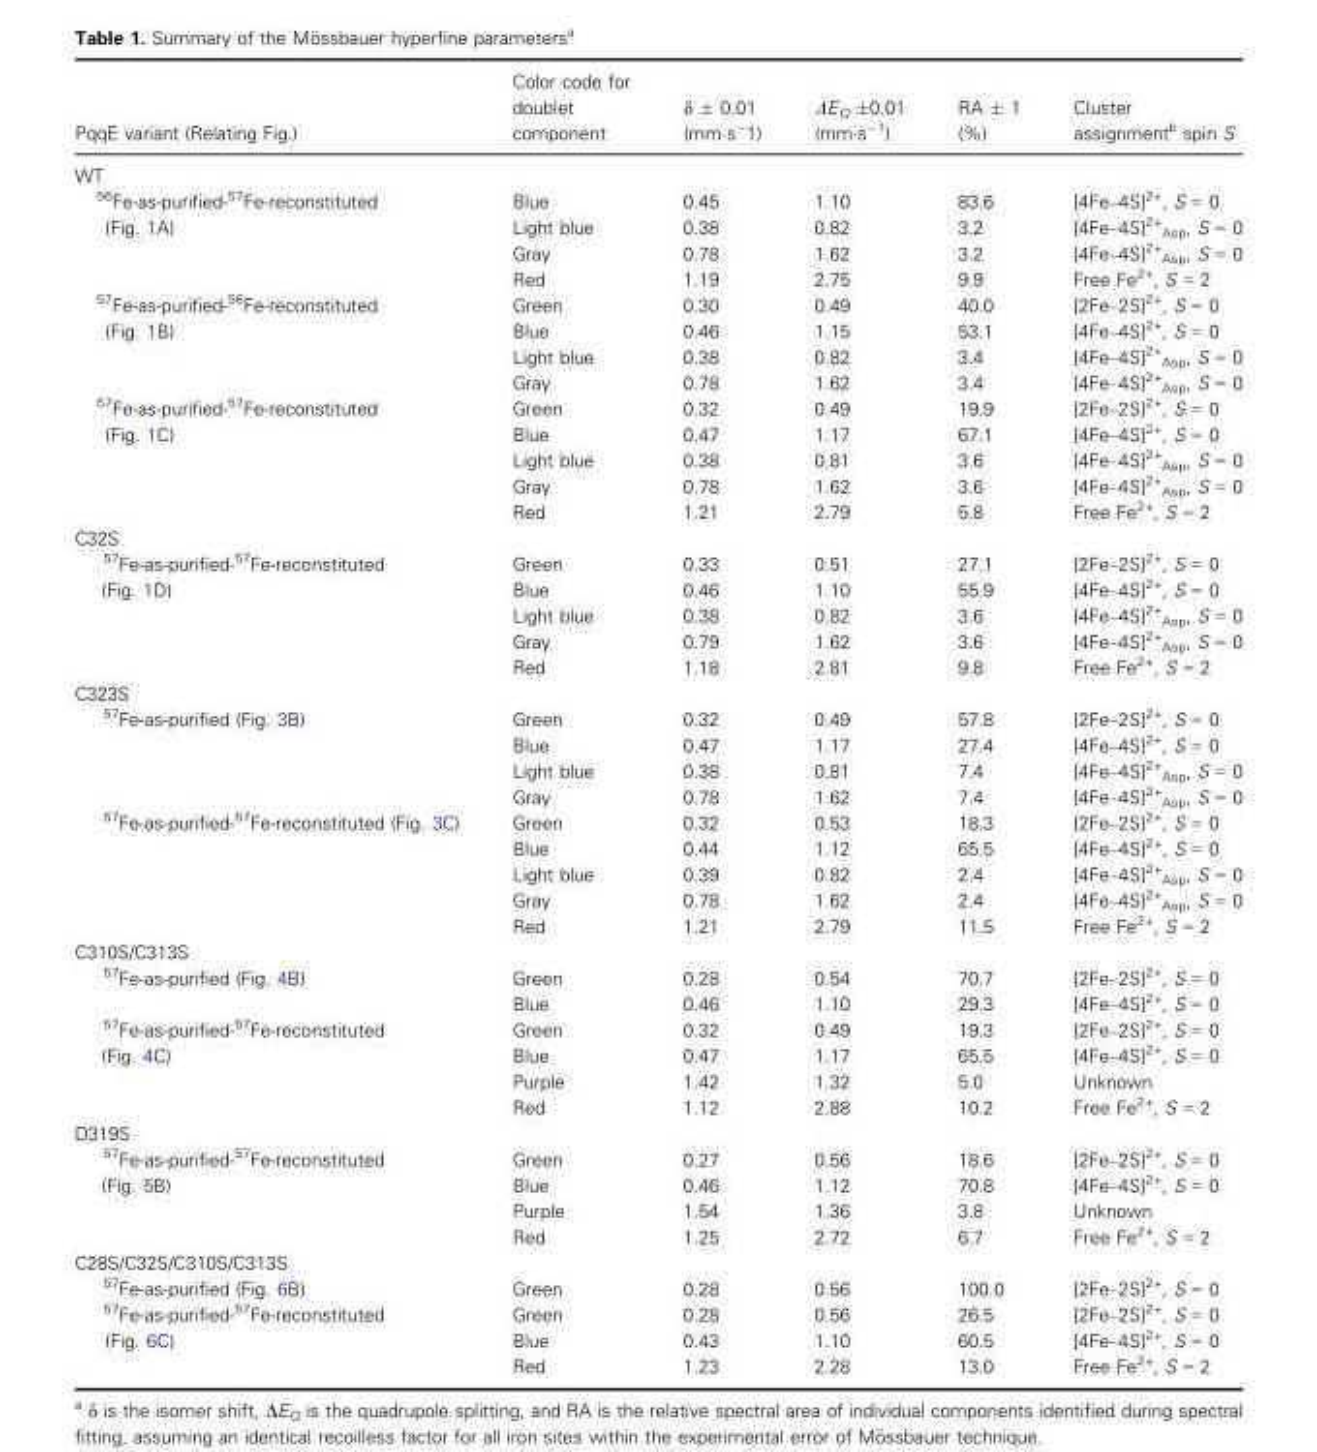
<table><thead><tr><td>PqqE variant (Relating Fig.)</td><td>Color code for doublet component</td><td>δ ± 0.01 (mm·s<sup>−</sup>1)</td><td>ΔE<sub>Q</sub> ±0.01 (mm·s<sup>−1</sup>)</td><td>RA ± 1 (%)</td><td>Cluster assignment<sup>b</sup> spin S</td></tr></thead><tbody><tr><td colspan="6">WT</td></tr><tr><td rowspan="4"><sup>56</sup>Fe-as-purified-<sup>57</sup>Fe-reconstituted (Fig. 1A)</td><td>Blue</td><td>0.45</td><td>1.10</td><td>83.6</td><td>[4Fe–4S]<sup>2+</sup>, S = 0</td></tr><tr><td>Light blue</td><td>0.38</td><td>0.82</td><td>3.2</td><td>[4Fe–4S]<sup>2+</sup> <sub>Asp</sub>, S = 0</td></tr><tr><td>Gray</td><td>0.78</td><td>1.62</td><td>3.2</td><td>[4Fe–4S]<sup>2+</sup> <sub>Asp</sub>, S = 0</td></tr><tr><td>Red</td><td>1.19</td><td>2.75</td><td>9.9</td><td>Free Fe<sup>2+</sup>, S = 2</td></tr><tr><td rowspan="4"><sup>57</sup>Fe-as-purified-<sup>56</sup>Fe-reconstituted (Fig. 1B)</td><td>Green</td><td>0.30</td><td>0.49</td><td>40.0</td><td>[2Fe–2S]<sup>2+</sup>, S = 0</td></tr><tr><td>Blue</td><td>0.46</td><td>1.15</td><td>53.1</td><td>[4Fe–4S]<sup>2+</sup>, S = 0</td></tr><tr><td>Light blue</td><td>0.38</td><td>0.82</td><td>3.4</td><td>[4Fe–4S]<sup>2+</sup> <sub>Asp</sub>, S = 0</td></tr><tr><td>Gray</td><td>0.78</td><td>1.62</td><td>3.4</td><td>[4Fe–4S]<sup>2+</sup> <sub>Asp</sub>, S = 0</td></tr><tr><td rowspan="5"><sup>57</sup>Fe-as-purified-<sup>57</sup>Fe-reconstituted (Fig. 1C)</td><td>Green</td><td>0.32</td><td>0.49</td><td>19.9</td><td>[2Fe–2S]<sup>2+</sup>, S = 0</td></tr><tr><td>Blue</td><td>0.47</td><td>1.17</td><td>67.1</td><td>[4Fe–4S]<sup>2+</sup>, S = 0</td></tr><tr><td>Light blue</td><td>0.38</td><td>0.81</td><td>3.6</td><td>[4Fe–4S]<sup>2+</sup> <sub>Asp</sub>, S = 0</td></tr><tr><td>Gray</td><td>0.78</td><td>1.62</td><td>3.6</td><td>[4Fe–4S]<sup>2+</sup> <sub>Asp</sub>, S = 0</td></tr><tr><td>Red</td><td>1.21</td><td>2.79</td><td>5.8</td><td>Free Fe<sup>2+</sup>, S = 2</td></tr><tr><td colspan="6">C32S</td></tr><tr><td rowspan="5"><sup>57</sup>Fe-as-purified-<sup>57</sup>Fe-reconstituted (Fig. 1D)</td><td>Green</td><td>0.33</td><td>0.51</td><td>27.1</td><td>[2Fe–2S]<sup>2+</sup>, S = 0</td></tr><tr><td>Blue</td><td>0.46</td><td>1.10</td><td>55.9</td><td>[4Fe–4S]<sup>2+</sup>, S = 0</td></tr><tr><td>Light blue</td><td>0.38</td><td>0.82</td><td>3.6</td><td>[4Fe–4S]<sup>2+</sup> <sub>Asp</sub>, S = 0</td></tr><tr><td>Gray</td><td>0.79</td><td>1.62</td><td>3.6</td><td>[4Fe–4S]<sup>2+</sup> <sub>Asp</sub>, S = 0</td></tr><tr><td>Red</td><td>1.18</td><td>2.81</td><td>9.8</td><td>Free Fe<sup>2+</sup>, S = 2</td></tr><tr><td colspan="6">C323S</td></tr><tr><td rowspan="4"><sup>57</sup>Fe-as-purified (Fig. 3B)</td><td>Green</td><td>0.32</td><td>0.49</td><td>57.8</td><td>[2Fe–2S]<sup>2+</sup>, S = 0</td></tr><tr><td>Blue</td><td>0.47</td><td>1.17</td><td>27.4</td><td>[4Fe–4S]<sup>2+</sup>, S = 0</td></tr><tr><td>Light blue</td><td>0.38</td><td>0.81</td><td>7.4</td><td>[4Fe–4S]<sup>2+</sup> <sub>Asp</sub>, S = 0</td></tr><tr><td>Gray</td><td>0.78</td><td>1.62</td><td>7.4</td><td>[4Fe–4S]<sup>2+</sup> <sub>Asp</sub>, S = 0</td></tr><tr><td rowspan="5"><sup>57</sup>Fe-as-purified-<sup>57</sup>Fe-reconstituted (Fig. 3C)</td><td>Green</td><td>0.32</td><td>0.53</td><td>18.3</td><td>[2Fe–2S]<sup>2+</sup>, S = 0</td></tr><tr><td>Blue</td><td>0.44</td><td>1.12</td><td>65.5</td><td>[4Fe–4S]<sup>2+</sup>, S = 0</td></tr><tr><td>Light blue</td><td>0.39</td><td>0.82</td><td>2.4</td><td>[4Fe–4S]<sup>2+</sup> <sub>Asp</sub>, S = 0</td></tr><tr><td>Gray</td><td>0.78</td><td>1.62</td><td>2.4</td><td>[4Fe–4S]<sup>2+</sup> <sub>Asp</sub>, S = 0</td></tr><tr><td>Red</td><td>1.21</td><td>2.79</td><td>11.5</td><td>Free Fe<sup>2+</sup>, S = 2</td></tr><tr><td colspan="6">C310S/C313S</td></tr><tr><td rowspan="2"><sup>57</sup>Fe-as-purified (Fig. 4B)</td><td>Green</td><td>0.28</td><td>0.54</td><td>70.7</td><td>[2Fe–2S]<sup>2+</sup>, S = 0</td></tr><tr><td>Blue</td><td>0.46</td><td>1.10</td><td>29.3</td><td>[4Fe–4S]<sup>2+</sup>, S = 0</td></tr><tr><td rowspan="4"><sup>57</sup>Fe-as-purified-<sup>57</sup>Fe-reconstituted (Fig. 4C)</td><td>Green</td><td>0.32</td><td>0.49</td><td>19.3</td><td>[2Fe–2S]<sup>2+</sup>, S = 0</td></tr><tr><td>Blue</td><td>0.47</td><td>1.17</td><td>65.5</td><td>[4Fe–4S]<sup>2+</sup>, S = 0</td></tr><tr><td>Purple</td><td>1.42</td><td>1.32</td><td>5.0</td><td>Unknown</td></tr><tr><td>Red</td><td>1.12</td><td>2.88</td><td>10.2</td><td>Free Fe<sup>2+</sup>, S = 2</td></tr><tr><td colspan="6">D319S</td></tr><tr><td rowspan="4"><sup>57</sup>Fe-as-purified-<sup>57</sup>Fe-reconstituted (Fig. 5B)</td><td>Green</td><td>0.27</td><td>0.56</td><td>18.6</td><td>[2Fe–2S]<sup>2+</sup>, S = 0</td></tr><tr><td>Blue</td><td>0.46</td><td>1.12</td><td>70.8</td><td>[4Fe–4S]<sup>2+</sup>, S = 0</td></tr><tr><td>Purple</td><td>1.54</td><td>1.36</td><td>3.8</td><td>Unknown</td></tr><tr><td>Red</td><td>1.25</td><td>2.72</td><td>6.7</td><td>Free Fe<sup>2+</sup>, S = 2</td></tr><tr><td colspan="6">C28S/C32S/C310S/C313S</td></tr><tr><td><sup>57</sup>Fe-as-purified (Fig. 6B)</td><td>Green</td><td>0.28</td><td>0.56</td><td>100.0</td><td>[2Fe–2S]<sup>2+</sup>, S = 0</td></tr><tr><td rowspan="3"><sup>57</sup>Fe-as-purified-<sup>57</sup>Fe-reconstituted (Fig. 6C)</td><td>Green</td><td>0.28</td><td>0.56</td><td>26.5</td><td>[2Fe–2S]<sup>2+</sup>, S = 0</td></tr><tr><td>Blue</td><td>0.43</td><td>1.10</td><td>60.5</td><td>[4Fe–4S]<sup>2+</sup>, S = 0</td></tr><tr><td>Red</td><td>1.23</td><td>2.28</td><td>13.0</td><td>Free Fe<sup>2+</sup>, S = 2</td></tr></tbody></table>